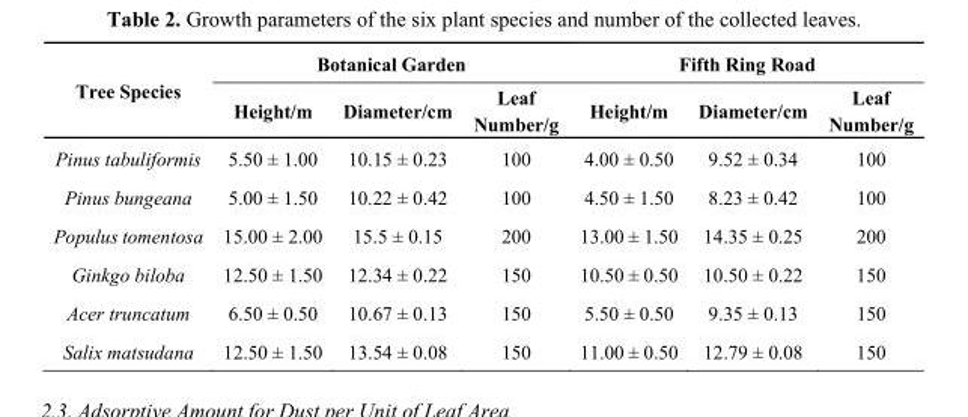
<table><thead><tr><td rowspan="2">Tree Species</td><td colspan="3">Botanical Garden</td><td colspan="3">Fifth Ring Road</td></tr><tr><td>Height/m</td><td>Diameter/cm</td><td>Leaf Number/g</td><td>Height/m</td><td>Diameter/cm</td><td>Leaf Number/g</td></tr></thead><tbody><tr><td>Pinus tabuliformis</td><td>5.50 ± 1.00</td><td>10.15 ± 0.23</td><td>100</td><td>4.00 ± 0.50</td><td>9.52 ± 0.34</td><td>100</td></tr><tr><td>Pinus bungeana</td><td>5.00 ± 1.50</td><td>10.22 ± 0.42</td><td>100</td><td>4.50 ± 1.50</td><td>8.23 ± 0.42</td><td>100</td></tr><tr><td>Populus tomentosa</td><td>15.00 ± 2.00</td><td>15.5 ± 0.15</td><td>200</td><td>13.00 ± 1.50</td><td>14.35 ± 0.25</td><td>200</td></tr><tr><td>Ginkgo biloba</td><td>12.50 ± 1.50</td><td>12.34 ± 0.22</td><td>150</td><td>10.50 ± 0.50</td><td>10.50 ± 0.22</td><td>150</td></tr><tr><td>Acer truncatum</td><td>6.50 ± 0.50</td><td>10.67 ± 0.13</td><td>150</td><td>5.50 ± 0.50</td><td>9.35 ± 0.13</td><td>150</td></tr><tr><td>Salix matsudana</td><td>12.50 ± 1.50</td><td>13.54 ± 0.08</td><td>150</td><td>11.00 ± 0.50</td><td>12.79 ± 0.08</td><td>150</td></tr></tbody></table>